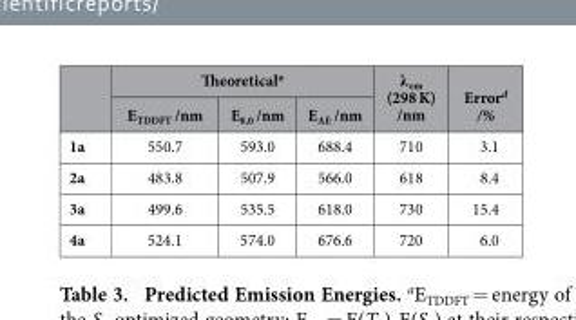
<table><thead><tr><td rowspan="2"></td><td colspan="3">Theoretical<sup>a</sup></td><td rowspan="2">λ <sub>em</sub> (298 K) /nm</td><td rowspan="2">Error<sup>d</sup> /%</td></tr><tr><td>E<sub>TDDFT</sub> /nm</td><td>E<sub>0,0</sub> /nm</td><td>E<sub>AE</sub> /nm</td></tr></thead><tbody><tr><td>1a</td><td>550.7</td><td>593.0</td><td>688.4</td><td>710</td><td>3.1</td></tr><tr><td>2a</td><td>483.8</td><td>507.9</td><td>566.0</td><td>618</td><td>8.4</td></tr><tr><td>3a</td><td>499.6</td><td>535.5</td><td>618.0</td><td>730</td><td>15.4</td></tr><tr><td>4a</td><td>524.1</td><td>574.0</td><td>676.6</td><td>720</td><td>6.0</td></tr></tbody></table>